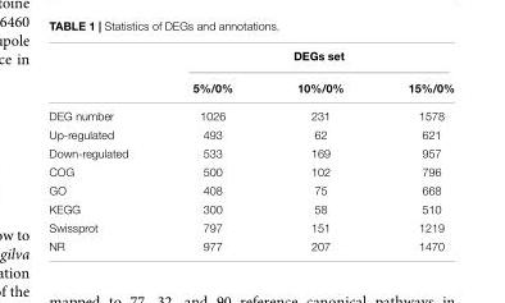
<table><thead><tr><td rowspan="2"></td><td colspan="3">DEGs set</td></tr><tr><td>5%/0%</td><td>10%/0%</td><td>15%/0%</td></tr></thead><tbody><tr><td>DEG number</td><td>1026</td><td>231</td><td>1578</td></tr><tr><td>Up-regulated</td><td>493</td><td>62</td><td>621</td></tr><tr><td>Down-regulated</td><td>533</td><td>169</td><td>957</td></tr><tr><td>COG</td><td>500</td><td>102</td><td>796</td></tr><tr><td>GO</td><td>408</td><td>75</td><td>668</td></tr><tr><td>KEGG</td><td>300</td><td>58</td><td>510</td></tr><tr><td>Swissprot</td><td>797</td><td>151</td><td>1219</td></tr><tr><td>NR</td><td>977</td><td>207</td><td>1470</td></tr></tbody></table>